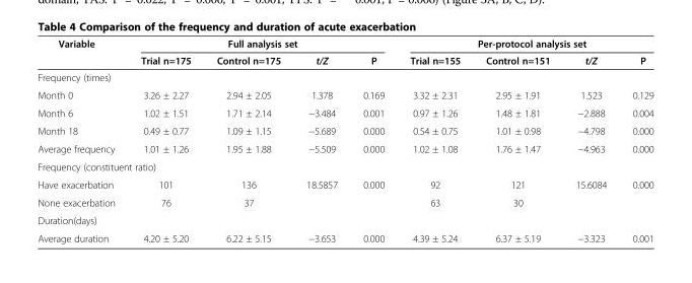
<table><thead><tr><td rowspan="2">Variable</td><td colspan="4">Full analysis set</td><td colspan="4">Per-protocol analysis set</td></tr><tr><td>Trial n=175</td><td>Control n=175</td><td>t/Z</td><td>P</td><td>Trial n=155</td><td>Control n=151</td><td>t/Z</td><td>P</td></tr></thead><tbody><tr><td colspan="9">Frequency (times)</td></tr><tr><td>Month 0</td><td>3.26 ± 2.27</td><td>2.94 ± 2.05</td><td>1.378</td><td>0.169</td><td>3.32 ± 2.31</td><td>2.95 ± 1.91</td><td>1.523</td><td>0.129</td></tr><tr><td>Month 6</td><td>1.02 ± 1.51</td><td>1.71 ± 2.14</td><td>−3.484</td><td>0.001</td><td>0.97 ± 1.26</td><td>1.48 ± 1.81</td><td>−2.888</td><td>0.004</td></tr><tr><td>Month 18</td><td>0.49 ± 0.77</td><td>1.09 ± 1.15</td><td>−5.689</td><td>0.000</td><td>0.54 ± 0.75</td><td>1.01 ± 0.98</td><td>−4.798</td><td>0.000</td></tr><tr><td>Average frequency</td><td>1.01 ± 1.26</td><td>1.95 ± 1.88</td><td>−5.509</td><td>0.000</td><td>1.02 ± 1.08</td><td>1.76 ± 1.47</td><td>−4.963</td><td>0.000</td></tr><tr><td colspan="9">Frequency (constituent ratio)</td></tr><tr><td>Have exacerbation</td><td>101</td><td>136</td><td rowspan="2">18.5857</td><td rowspan="2">0.000</td><td>92</td><td>121</td><td rowspan="2">15.6084</td><td rowspan="2">0.000</td></tr><tr><td>None exacerbation</td><td>76</td><td>37</td><td>63</td><td>30</td></tr><tr><td colspan="9">Duration(days)</td></tr><tr><td>Average duration</td><td>4.20 ± 5.20</td><td>6.22 ± 5.15</td><td>−3.653</td><td>0.000</td><td>4.39 ± 5.24</td><td>6.37 ± 5.19</td><td>−3.323</td><td>0.001</td></tr></tbody></table>